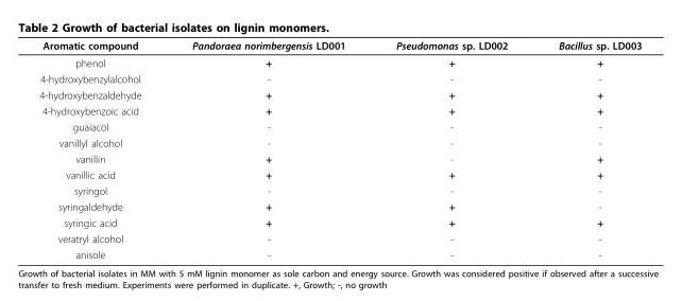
<table><thead><tr><td>Aromatic compound</td><td>Pandoraea norimbergensis LD001</td><td>Pseudomonas sp. LD002</td><td>Bacillus sp. LD003</td></tr></thead><tbody><tr><td>phenol</td><td>+</td><td>+</td><td>+</td></tr><tr><td>4-hydroxybenzylalcohol</td><td>-</td><td>-</td><td>-</td></tr><tr><td>4-hydroxybenzaldehyde</td><td>+</td><td>+</td><td>+</td></tr><tr><td>4-hydroxybenzoic acid</td><td>+</td><td>+</td><td>+</td></tr><tr><td>guaiacol</td><td>-</td><td>-</td><td>-</td></tr><tr><td>vanillyl alcohol</td><td>-</td><td>-</td><td>-</td></tr><tr><td>vanillin</td><td>+</td><td>-</td><td>+</td></tr><tr><td>vanillic acid</td><td>+</td><td>+</td><td>+</td></tr><tr><td>syringol</td><td>-</td><td>-</td><td>-</td></tr><tr><td>syringaldehyde</td><td>+</td><td>+</td><td>-</td></tr><tr><td>syringic acid</td><td>+</td><td>+</td><td>+</td></tr><tr><td>veratryl alcohol</td><td>-</td><td>-</td><td>-</td></tr><tr><td>anisole</td><td>-</td><td>-</td><td>-</td></tr></tbody></table>